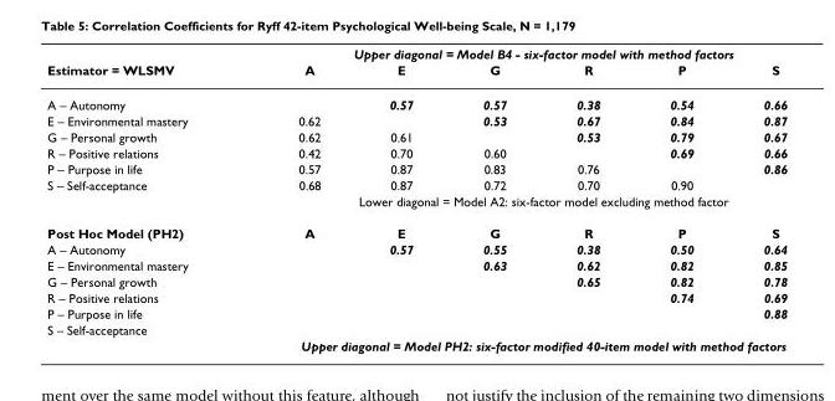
<table><thead><tr><td rowspan="2">Estimator = WLSMV</td><td colspan="6">Upper diagonal = Model B4 - six-factor model with method factors</td></tr><tr><td>A</td><td>E</td><td>G</td><td>R</td><td>P</td><td>S</td></tr></thead><tbody><tr><td>A – Autonomy</td><td></td><td>0.57</td><td>0.57</td><td>0.38</td><td>0.54</td><td>0.66</td></tr><tr><td>E – Environmental mastery</td><td>0.62</td><td></td><td>0.53</td><td>0.67</td><td>0.84</td><td>0.87</td></tr><tr><td>G – Personal growth</td><td>0.62</td><td>0.61</td><td></td><td>0.53</td><td>0.79</td><td>0.67</td></tr><tr><td>R – Positive relations</td><td>0.42</td><td>0.70</td><td>0.60</td><td></td><td>0.69</td><td>0.66</td></tr><tr><td>P – Purpose in life</td><td>0.57</td><td>0.87</td><td>0.83</td><td>0.76</td><td></td><td>0.86</td></tr><tr><td rowspan="2">S – Self-acceptance</td><td>0.68</td><td>0.87</td><td>0.72</td><td>0.70</td><td>0.90</td><td></td></tr><tr><td colspan="6">Lower diagonal = Model A2: six-factor model excluding method factor</td></tr><tr><td>Post Hoc Model (PH2)</td><td>A</td><td>E</td><td>G</td><td>R</td><td>P</td><td>S</td></tr><tr><td>A – Autonomy</td><td></td><td>0.57</td><td>0.55</td><td>0.38</td><td>0.50</td><td>0.64</td></tr><tr><td>E – Environmental mastery</td><td></td><td></td><td>0.63</td><td>0.62</td><td>0.82</td><td>0.85</td></tr><tr><td>G – Personal growth</td><td></td><td></td><td></td><td>0.65</td><td>0.82</td><td>0.78</td></tr><tr><td>R – Positive relations</td><td></td><td></td><td></td><td></td><td>0.74</td><td>0.69</td></tr><tr><td>P – Purpose in life</td><td></td><td></td><td></td><td></td><td></td><td>0.88</td></tr><tr><td colspan="7">S – Self-acceptance</td></tr><tr><td></td><td colspan="6">Upper diagonal = Model PH2: six-factor modified 40-item model with method factors</td></tr></tbody></table>